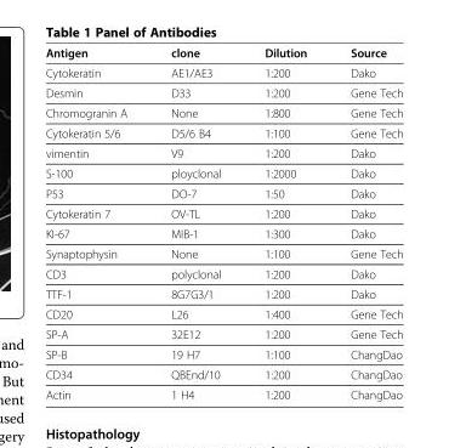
<table><thead><tr><td>Antigen</td><td>clone</td><td>Dilution</td><td>Source</td></tr></thead><tbody><tr><td>Cytokeratin</td><td>AE1/AE3</td><td>1:200</td><td>Dako</td></tr><tr><td>Desmin</td><td>D33</td><td>1:200</td><td>Gene Tech</td></tr><tr><td>Chromogranin A</td><td>None</td><td>1:800</td><td>Gene Tech</td></tr><tr><td>Cytokeratin 5/6</td><td>D5/6 B4</td><td>1:100</td><td>Gene Tech</td></tr><tr><td>vimentin</td><td>V9</td><td>1:200</td><td>Dako</td></tr><tr><td>S-100</td><td>ployclonal</td><td>1:2000</td><td>Dako</td></tr><tr><td>P53</td><td>DO-7</td><td>1:50</td><td>Dako</td></tr><tr><td>Cytokeratin 7</td><td>OV-TL</td><td>1:200</td><td>Dako</td></tr><tr><td>KI-67</td><td>MIB-1</td><td>1:300</td><td>Dako</td></tr><tr><td>Synaptophysin</td><td>None</td><td>1:100</td><td>Gene Tech</td></tr><tr><td>CD3</td><td>polyclonal</td><td>1:200</td><td>Dako</td></tr><tr><td>TTF-1</td><td>8G7G3/1</td><td>1:200</td><td>Dako</td></tr><tr><td>CD20</td><td>L26</td><td>1:400</td><td>Gene Tech</td></tr><tr><td>SP-A</td><td>32E12</td><td>1:200</td><td>Gene Tech</td></tr><tr><td>SP-B</td><td>19 H7</td><td>1:100</td><td>ChangDao</td></tr><tr><td>CD34</td><td>QBEnd/10</td><td>1:200</td><td>ChangDao</td></tr><tr><td>Actin</td><td>1 H4</td><td>1:200</td><td>ChangDao</td></tr></tbody></table>